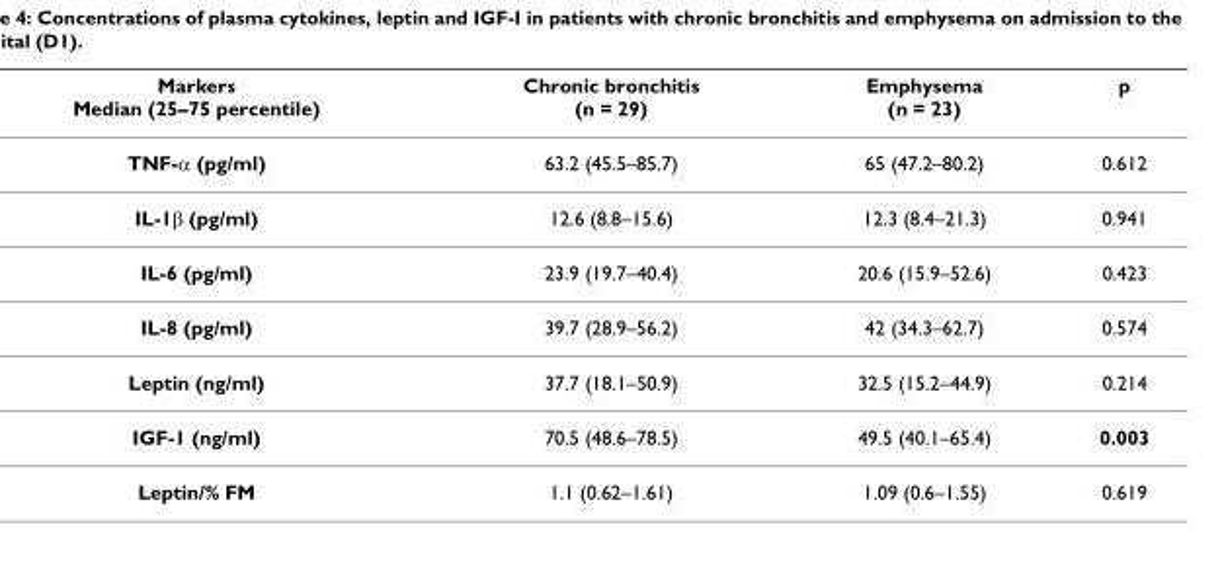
<table><thead><tr><td>Markers Median (25–75 percentile)</td><td>Chronic bronchitis (n = 29)</td><td>Emphysema (n = 23)</td><td>p</td></tr></thead><tbody><tr><td>TNF-α (pg/ml)</td><td>63.2 (45.5–85.7)</td><td>65 (47.2–80.2)</td><td>0.612</td></tr><tr><td>IL-1β (pg/ml)</td><td>12.6 (8.8–15.6)</td><td>12.3 (8.4–21.3)</td><td>0.941</td></tr><tr><td>IL-6 (pg/ml)</td><td>23.9 (19.7–40.4)</td><td>20.6 (15.9–52.6)</td><td>0.423</td></tr><tr><td>IL-8 (pg/ml)</td><td>39.7 (28.9–56.2)</td><td>42 (34.3–62.7)</td><td>0.574</td></tr><tr><td>Leptin (ng/ml)</td><td>37.7 (18.1–50.9)</td><td>32.5 (15.2–44.9)</td><td>0.214</td></tr><tr><td>IGF-1 (ng/ml)</td><td>70.5 (48.6–78.5)</td><td>49.5 (40.1–65.4)</td><td>0.003</td></tr><tr><td>Leptin/% FM</td><td>1.1 (0.62–1.61)</td><td>1.09 (0.6–1.55)</td><td>0.619</td></tr></tbody></table>